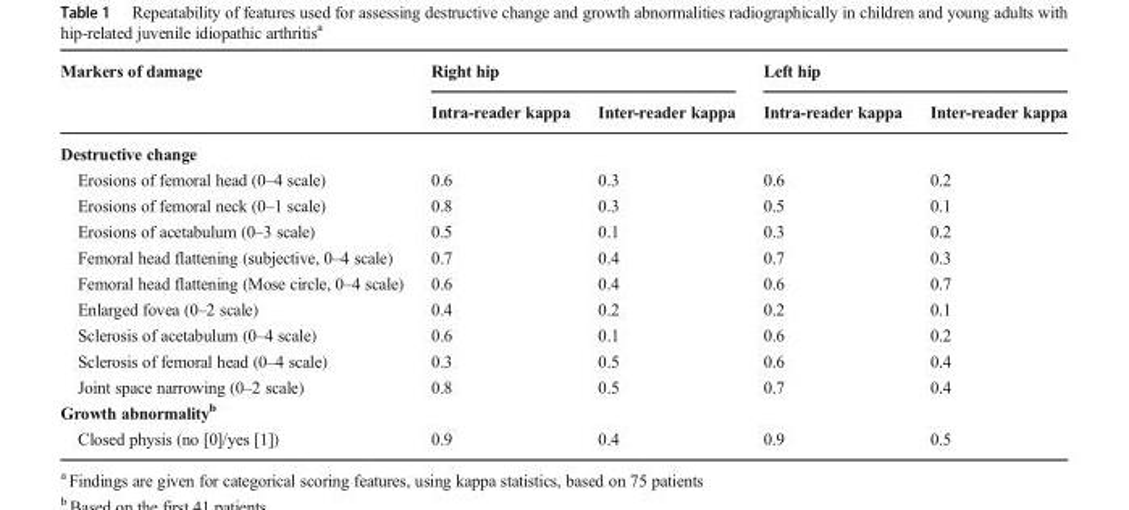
<table><thead><tr><td rowspan="2">Markers of damage</td><td colspan="2">Right hip</td><td colspan="2">Left hip</td></tr><tr><td>Intra-reader kappa</td><td>Inter-reader kappa</td><td>Intra-reader kappa</td><td>Inter-reader kappa</td></tr></thead><tbody><tr><td colspan="5">Destructive change</td></tr><tr><td>Erosions of femoral head (0–4 scale)</td><td>0.6</td><td>0.3</td><td>0.6</td><td>0.2</td></tr><tr><td>Erosions of femoral neck (0–1 scale)</td><td>0.8</td><td>0.3</td><td>0.5</td><td>0.1</td></tr><tr><td>Erosions of acetabulum (0–3 scale)</td><td>0.5</td><td>0.1</td><td>0.3</td><td>0.2</td></tr><tr><td>Femoral head flattening (subjective, 0–4 scale)</td><td>0.7</td><td>0.4</td><td>0.7</td><td>0.3</td></tr><tr><td>Femoral head flattening (Mose circle, 0–4 scale)</td><td>0.6</td><td>0.4</td><td>0.6</td><td>0.7</td></tr><tr><td>Enlarged fovea (0–2 scale)</td><td>0.4</td><td>0.2</td><td>0.2</td><td>0.1</td></tr><tr><td>Sclerosis of acetabulum (0–4 scale)</td><td>0.6</td><td>0.1</td><td>0.6</td><td>0.2</td></tr><tr><td>Sclerosis of femoral head (0–4 scale)</td><td>0.3</td><td>0.5</td><td>0.6</td><td>0.4</td></tr><tr><td>Joint space narrowing (0–2 scale)</td><td>0.8</td><td>0.5</td><td>0.7</td><td>0.4</td></tr><tr><td colspan="5">Growth abnormality<sup>b</sup></td></tr><tr><td>Closed physis (no [0]/yes [1])</td><td>0.9</td><td>0.4</td><td>0.9</td><td>0.5</td></tr></tbody></table>